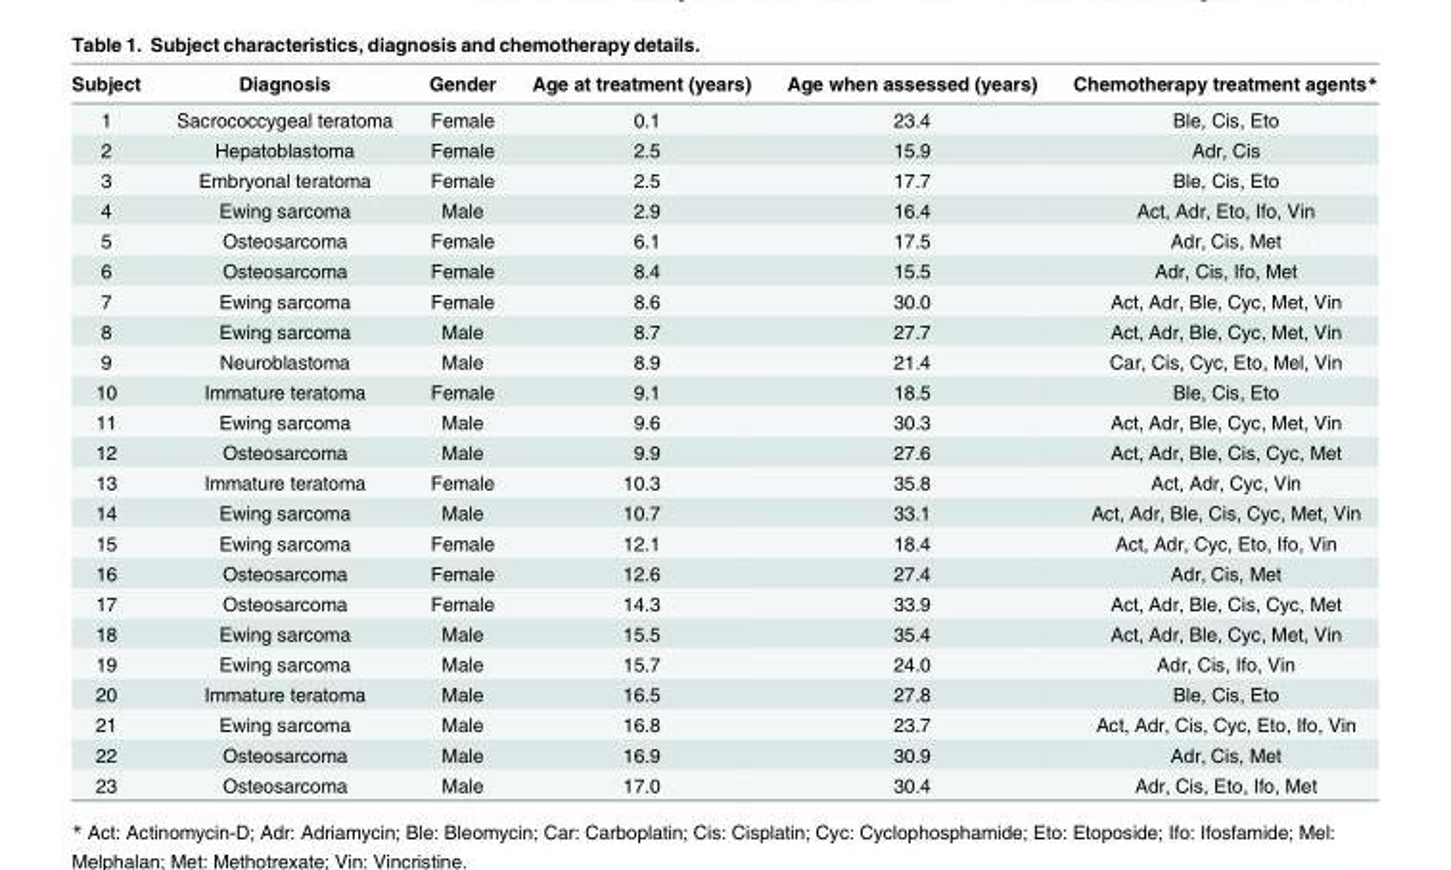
<table><thead><tr><td>Subject</td><td>Diagnosis</td><td>Gender</td><td>Age at treatment (years)</td><td>Age when assessed (years)</td><td>Chemotherapy treatment agents*</td></tr></thead><tbody><tr><td>1</td><td>Sacrococcygeal teratoma</td><td>Female</td><td>0.1</td><td>23.4</td><td>Ble, Cis, Eto</td></tr><tr><td>2</td><td>Hepatoblastoma</td><td>Female</td><td>2.5</td><td>15.9</td><td>Adr, Cis</td></tr><tr><td>3</td><td>Embryonal teratoma</td><td>Female</td><td>2.5</td><td>17.7</td><td>Ble, Cis, Eto</td></tr><tr><td>4</td><td>Ewing sarcoma</td><td>Male</td><td>2.9</td><td>16.4</td><td>Act, Adr, Eto, Ifo, Vin</td></tr><tr><td>5</td><td>Osteosarcoma</td><td>Female</td><td>6.1</td><td>17.5</td><td>Adr, Cis, Met</td></tr><tr><td>6</td><td>Osteosarcoma</td><td>Female</td><td>8.4</td><td>15.5</td><td>Adr, Cis, Ifo, Met</td></tr><tr><td>7</td><td>Ewing sarcoma</td><td>Female</td><td>8.6</td><td>30.0</td><td>Act, Adr, Ble, Cyc, Met, Vin</td></tr><tr><td>8</td><td>Ewing sarcoma</td><td>Male</td><td>8.7</td><td>27.7</td><td>Act, Adr, Ble, Cyc, Met, Vin</td></tr><tr><td>9</td><td>Neuroblastoma</td><td>Male</td><td>8.9</td><td>21.4</td><td>Car, Cis, Cyc, Eto, Mel, Vin</td></tr><tr><td>10</td><td>Immature teratoma</td><td>Female</td><td>9.1</td><td>18.5</td><td>Ble, Cis, Eto</td></tr><tr><td>11</td><td>Ewing sarcoma</td><td>Male</td><td>9.6</td><td>30.3</td><td>Act, Adr, Ble, Cyc, Met, Vin</td></tr><tr><td>12</td><td>Osteosarcoma</td><td>Male</td><td>9.9</td><td>27.6</td><td>Act, Adr, Ble, Cis, Cyc, Met</td></tr><tr><td>13</td><td>Immature teratoma</td><td>Female</td><td>10.3</td><td>35.8</td><td>Act, Adr, Cyc, Vin</td></tr><tr><td>14</td><td>Ewing sarcoma</td><td>Male</td><td>10.7</td><td>33.1</td><td>Act, Adr, Ble, Cis, Cyc, Met, Vin</td></tr><tr><td>15</td><td>Ewing sarcoma</td><td>Female</td><td>12.1</td><td>18.4</td><td>Act, Adr, Cyc, Eto, Ifo, Vin</td></tr><tr><td>16</td><td>Osteosarcoma</td><td>Female</td><td>12.6</td><td>27.4</td><td>Adr, Cis, Met</td></tr><tr><td>17</td><td>Osteosarcoma</td><td>Female</td><td>14.3</td><td>33.9</td><td>Act, Adr, Ble, Cis, Cyc, Met</td></tr><tr><td>18</td><td>Ewing sarcoma</td><td>Male</td><td>15.5</td><td>35.4</td><td>Act, Adr, Ble, Cyc, Met, Vin</td></tr><tr><td>19</td><td>Ewing sarcoma</td><td>Male</td><td>15.7</td><td>24.0</td><td>Adr, Cis, Ifo, Vin</td></tr><tr><td>20</td><td>Immature teratoma</td><td>Male</td><td>16.5</td><td>27.8</td><td>Ble, Cis, Eto</td></tr><tr><td>21</td><td>Ewing sarcoma</td><td>Male</td><td>16.8</td><td>23.7</td><td>Act, Adr, Cis, Cyc, Eto, Ifo, Vin</td></tr><tr><td>22</td><td>Osteosarcoma</td><td>Male</td><td>16.9</td><td>30.9</td><td>Adr, Cis, Met</td></tr><tr><td>23</td><td>Osteosarcoma</td><td>Male</td><td>17.0</td><td>30.4</td><td>Adr, Cis, Eto, Ifo, Met</td></tr></tbody></table>